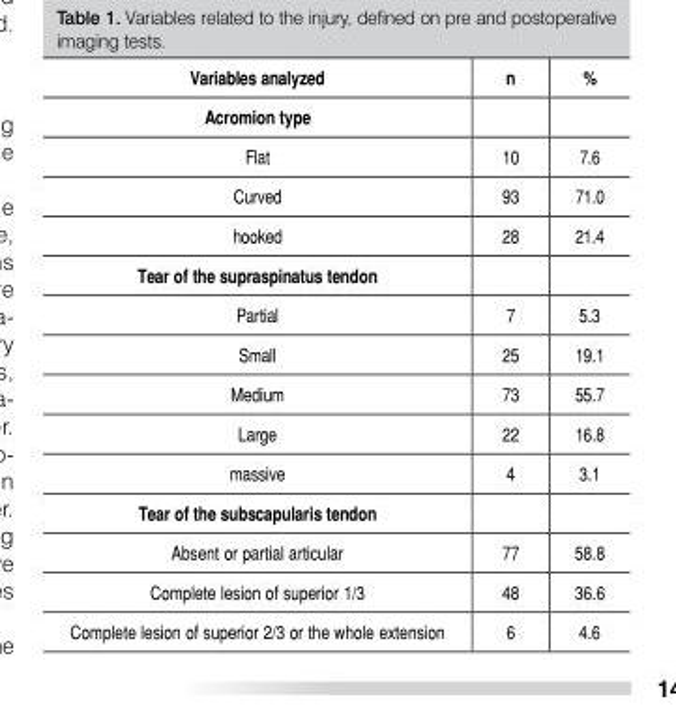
<table><thead><tr><td>Variables analyzed</td><td>n</td><td>%</td></tr></thead><tbody><tr><td colspan="3">Acromion type</td></tr><tr><td>Flat</td><td>10</td><td>7.6</td></tr><tr><td>Curved</td><td>93</td><td>71.0</td></tr><tr><td>hooked</td><td>28</td><td>21.4</td></tr><tr><td colspan="3">Tear of the supraspinatus tendon</td></tr><tr><td>Partial</td><td>7</td><td>5.3</td></tr><tr><td>Small</td><td>25</td><td>19.1</td></tr><tr><td>Medium</td><td>73</td><td>55.7</td></tr><tr><td>Large</td><td>22</td><td>16.8</td></tr><tr><td>massive</td><td>4</td><td>3.1</td></tr><tr><td colspan="3">Tear of the subscapularis tendon</td></tr><tr><td>Absent or partial articular</td><td>77</td><td>58.8</td></tr><tr><td>Complete lesion of superior 1/3</td><td>48</td><td>36.6</td></tr><tr><td>Complete lesion of superior 2/3 or the whole extension</td><td>6</td><td>4.6</td></tr></tbody></table>